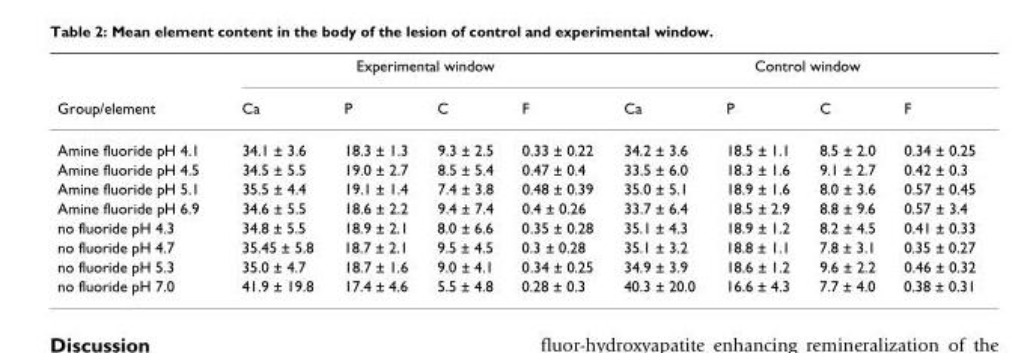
<table><thead><tr><td rowspan="2">Group/element</td><td colspan="4">Experimental window</td><td colspan="4">Control window</td></tr><tr><td>Ca</td><td>P</td><td>C</td><td>F</td><td>Ca</td><td>P</td><td>C</td><td>F</td></tr></thead><tbody><tr><td>Amine fluoride pH 4.1</td><td>34.1 ± 3.6</td><td>18.3 ± 1.3</td><td>9.3 ± 2.5</td><td>0.33 ± 0.22</td><td>34.2 ± 3.6</td><td>18.5 ± 1.1</td><td>8.5 ± 2.0</td><td>0.34 ± 0.25</td></tr><tr><td>Amine fluoride pH 4.5</td><td>34.5 ± 5.5</td><td>19.0 ± 2.7</td><td>8.5 ± 5.4</td><td>0.47 ± 0.4</td><td>33.5 ± 6.0</td><td>18.3 ± 1.6</td><td>9.1 ± 2.7</td><td>0.42 ± 0.3</td></tr><tr><td>Amine fluoride pH 5.1</td><td>35.5 ± 4.4</td><td>19.1 ± 1.4</td><td>7.4 ± 3.8</td><td>0.48 ± 0.39</td><td>35.0 ± 5.1</td><td>18.9 ± 1.6</td><td>8.0 ± 3.6</td><td>0.57 ± 0.45</td></tr><tr><td>Amine fluoride pH 6.9</td><td>34.6 ± 5.5</td><td>18.6 ± 2.2</td><td>9.4 ± 7.4</td><td>0.4 ± 0.26</td><td>33.7 ± 6.4</td><td>18.5 ± 2.9</td><td>8.8 ± 9.6</td><td>0.57 ± 3.4</td></tr><tr><td>no fluoride pH 4.3</td><td>34.8 ± 5.5</td><td>18.9 ± 2.1</td><td>8.0 ± 6.6</td><td>0.35 ± 0.28</td><td>35.1 ± 4.3</td><td>18.9 ± 1.2</td><td>8.2 ± 4.5</td><td>0.41 ± 0.33</td></tr><tr><td>no fluoride pH 4.7</td><td>35.45 ± 5.8</td><td>18.7 ± 2.1</td><td>9.5 ± 4.5</td><td>0.3 ± 0.28</td><td>35.1 ± 3.2</td><td>18.8 ± 1.1</td><td>7.8 ± 3.1</td><td>0.35 ± 0.27</td></tr><tr><td>no fluoride pH 5.3</td><td>35.0 ± 4.7</td><td>18.7 ± 1.6</td><td>9.0 ± 4.1</td><td>0.34 ± 0.25</td><td>34.9 ± 3.9</td><td>18.6 ± 1.2</td><td>9.6 ± 2.2</td><td>0.46 ± 0.32</td></tr><tr><td>no fluoride pH 7.0</td><td>41.9 ± 19.8</td><td>17.4 ± 4.6</td><td>5.5 ± 4.8</td><td>0.28 ± 0.3</td><td>40.3 ± 20.0</td><td>16.6 ± 4.3</td><td>7.7 ± 4.0</td><td>0.38 ± 0.31</td></tr></tbody></table>